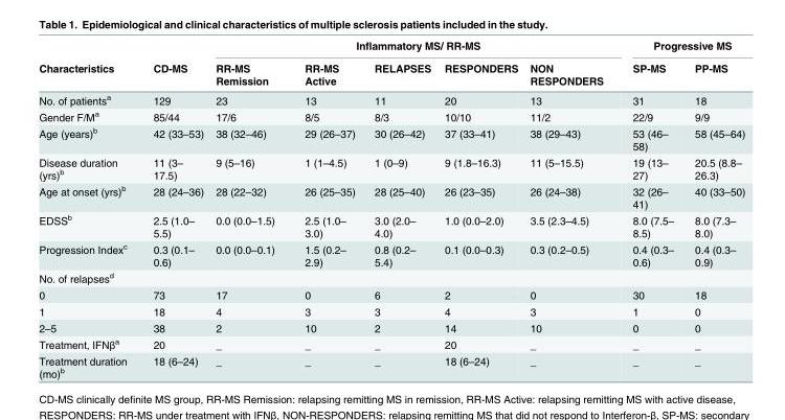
<table><thead><tr><td rowspan="2">Characteristics</td><td rowspan="2">CD-MS</td><td colspan="5">Inflammatory MS/ RR-MS</td><td colspan="2">Progressive MS</td></tr><tr><td>RR-MS Remission</td><td>RR-MS Active</td><td>RELAPSES</td><td>RESPONDERS</td><td>NON RESPONDERS</td><td>SP-MS</td><td>PP-MS</td></tr></thead><tbody><tr><td>No. of patients<sup>a</sup></td><td>129</td><td>23</td><td>13</td><td>11</td><td>20</td><td>13</td><td>31</td><td>18</td></tr><tr><td>Gender F/M<sup>a</sup></td><td>85/44</td><td>17/6</td><td>8/5</td><td>8/3</td><td>10/10</td><td>11/2</td><td>22/9</td><td>9/9</td></tr><tr><td>Age (years)<sup>b</sup></td><td>42 (33–53)</td><td>38 (32–46)</td><td>29 (26–37)</td><td>30 (26–42)</td><td>37 (33–41)</td><td>38 (29–43)</td><td>53 (46– 58)</td><td>58 (45–64)</td></tr><tr><td>Disease duration (yrs)<sup>b</sup></td><td>11 (3– 17.5)</td><td>9 (5–16)</td><td>1 (1–4.5)</td><td>1 (0–9)</td><td>9 (1.8–16.3)</td><td>11 (5–15.5)</td><td>19 (13– 27)</td><td>20.5 (8.8– 26.3)</td></tr><tr><td>Age at onset (yrs)<sup>b</sup></td><td>28 (24–36)</td><td>28 (22–32)</td><td>26 (25–35)</td><td>28 (25–40)</td><td>26 (23–35)</td><td>26 (24–38)</td><td>32 (26– 41)</td><td>40 (33–50)</td></tr><tr><td>EDSS<sup>b</sup></td><td>2.5 (1.0– 5.5)</td><td>0.0 (0.0–1.5)</td><td>2.5 (1.0– 3.0)</td><td>3.0 (2.0– 4.0)</td><td>1.0 (0.0–2.0)</td><td>3.5 (2.3–4.5)</td><td>8.0 (7.5– 8.5)</td><td>8.0 (7.3– 8.0)</td></tr><tr><td>Progression Index<sup>c</sup></td><td>0.3 (0.1– 0.6)</td><td>0.0 (0.0–0.1)</td><td>1.5 (0.2– 2.9)</td><td>0.8 (0.2– 5.4)</td><td>0.1 (0.0–0.3)</td><td>0.3 (0.2–0.5)</td><td>0.4 (0.3– 0.6)</td><td>0.4 (0.3– 0.9)</td></tr><tr><td colspan="9">No. of relapses<sup>d</sup></td></tr><tr><td>0</td><td>73</td><td>17</td><td>0</td><td>6</td><td>2</td><td>0</td><td>30</td><td>18</td></tr><tr><td>1</td><td>18</td><td>4</td><td>3</td><td>3</td><td>4</td><td>3</td><td>1</td><td>0</td></tr><tr><td>2–5</td><td>38</td><td>2</td><td>10</td><td>2</td><td>14</td><td>10</td><td>0</td><td>0</td></tr><tr><td>Treatment, IFNβ<sup>a</sup></td><td>20</td><td>_</td><td>_</td><td>_</td><td>20</td><td>_</td><td>_</td><td>_</td></tr><tr><td>Treatment duration (mo)<sup>b</sup></td><td>18 (6–24)</td><td>_</td><td>_</td><td>_</td><td>18 (6–24)</td><td>_</td><td>_</td><td>_</td></tr></tbody></table>